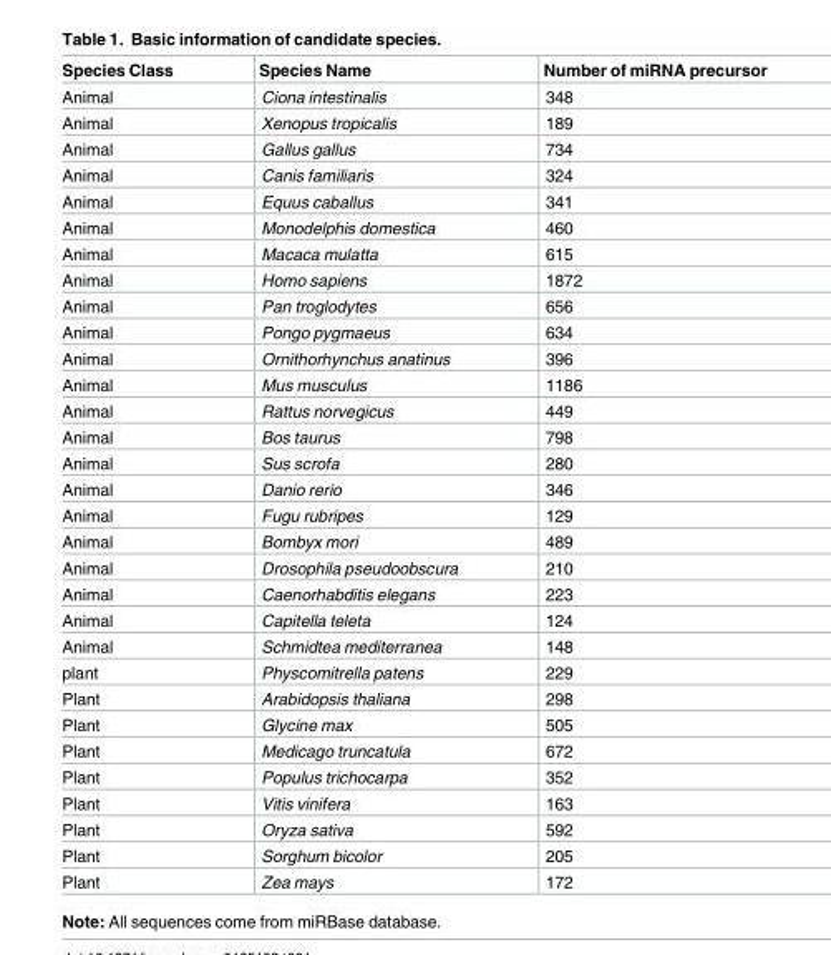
<table><thead><tr><td>Species Class</td><td>Species Name</td><td>Number of miRNA precursor</td></tr></thead><tbody><tr><td>Animal</td><td>Ciona intestinalis</td><td>348</td></tr><tr><td>Animal</td><td>Xenopus tropicalis</td><td>189</td></tr><tr><td>Animal</td><td>Gallus gallus</td><td>734</td></tr><tr><td>Animal</td><td>Canis familiaris</td><td>324</td></tr><tr><td>Animal</td><td>Equus caballus</td><td>341</td></tr><tr><td>Animal</td><td>Monodelphis domestica</td><td>460</td></tr><tr><td>Animal</td><td>Macaca mulatta</td><td>615</td></tr><tr><td>Animal</td><td>Homo sapiens</td><td>1872</td></tr><tr><td>Animal</td><td>Pan troglodytes</td><td>656</td></tr><tr><td>Animal</td><td>Pongo pygmaeus</td><td>634</td></tr><tr><td>Animal</td><td>Ornithorhynchus anatinus</td><td>396</td></tr><tr><td>Animal</td><td>Mus musculus</td><td>1186</td></tr><tr><td>Animal</td><td>Rattus norvegicus</td><td>449</td></tr><tr><td>Animal</td><td>Bos taurus</td><td>798</td></tr><tr><td>Animal</td><td>Sus scrofa</td><td>280</td></tr><tr><td>Animal</td><td>Danio rerio</td><td>346</td></tr><tr><td>Animal</td><td>Fugu rubripes</td><td>129</td></tr><tr><td>Animal</td><td>Bombyx mori</td><td>489</td></tr><tr><td>Animal</td><td>Drosophila pseudoobscura</td><td>210</td></tr><tr><td>Animal</td><td>Caenorhabditis elegans</td><td>223</td></tr><tr><td>Animal</td><td>Capitella teleta</td><td>124</td></tr><tr><td>Animal</td><td>Schmidtea mediterranea</td><td>148</td></tr><tr><td>plant</td><td>Physcomitrella patens</td><td>229</td></tr><tr><td>Plant</td><td>Arabidopsis thaliana</td><td>298</td></tr><tr><td>Plant</td><td>Glycine max</td><td>505</td></tr><tr><td>Plant</td><td>Medicago truncatula</td><td>672</td></tr><tr><td>Plant</td><td>Populus trichocarpa</td><td>352</td></tr><tr><td>Plant</td><td>Vitis vinifera</td><td>163</td></tr><tr><td>Plant</td><td>Oryza sativa</td><td>592</td></tr><tr><td>Plant</td><td>Sorghum bicolor</td><td>205</td></tr><tr><td>Plant</td><td>Zea mays</td><td>172</td></tr></tbody></table>